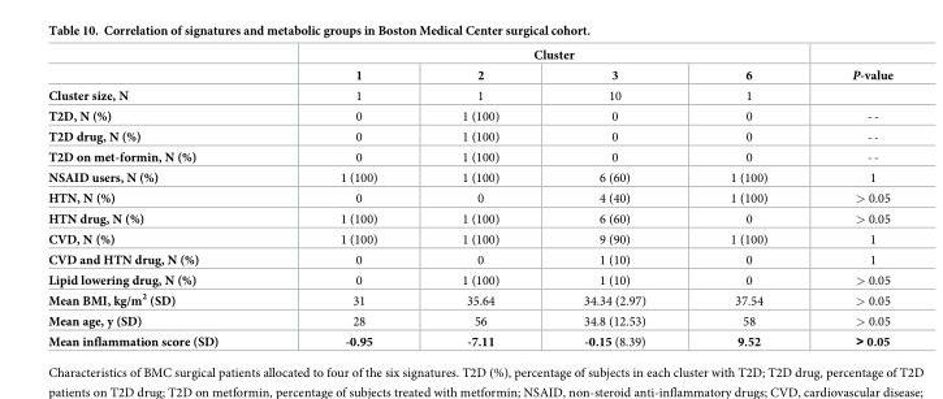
<table><thead><tr><td rowspan="2"></td><td colspan="4">Cluster</td><td rowspan="2">P-value</td></tr><tr><td>1</td><td>2</td><td>3</td><td>6</td></tr></thead><tbody><tr><td>Cluster size, N</td><td>1</td><td>1</td><td>10</td><td>1</td><td></td></tr><tr><td>T2D, N (%)</td><td>0</td><td>1 (100)</td><td>0</td><td>0</td><td>--</td></tr><tr><td>T2D drug, N (%)</td><td>0</td><td>1 (100)</td><td>0</td><td>0</td><td>--</td></tr><tr><td>T2D on met-formin, N (%)</td><td>0</td><td>1 (100)</td><td>0</td><td>0</td><td>--</td></tr><tr><td>NSAID users, N (%)</td><td>1 (100)</td><td>1 (100)</td><td>6 (60)</td><td>1 (100)</td><td>1</td></tr><tr><td>HTN, N (%)</td><td>0</td><td>0</td><td>4 (40)</td><td>1 (100)</td><td>&gt; 0.05</td></tr><tr><td>HTN drug, N (%)</td><td>1 (100)</td><td>1 (100)</td><td>6 (60)</td><td>0</td><td>&gt; 0.05</td></tr><tr><td>CVD, N (%)</td><td>1 (100)</td><td>1 (100)</td><td>9 (90)</td><td>1 (100)</td><td>1</td></tr><tr><td>CVD and HTN drug, N (%)</td><td>0</td><td>0</td><td>1 (10)</td><td>0</td><td>1</td></tr><tr><td>Lipid lowering drug, N (%)</td><td>0</td><td>1 (100)</td><td>1 (10)</td><td>0</td><td>&gt; 0.05</td></tr><tr><td>Mean BMI, kg/m<sup>2</sup> (SD)</td><td>31</td><td>35.64</td><td>34.34 (2.97)</td><td>37.54</td><td>&gt; 0.05</td></tr><tr><td>Mean age, y (SD)</td><td>28</td><td>56</td><td>34.8 (12.53)</td><td>58</td><td>&gt; 0.05</td></tr><tr><td>Mean inflammation score (SD)</td><td>-0.95</td><td>-7.11</td><td>-0.15 (8.39)</td><td>9.52</td><td>&gt; 0.05</td></tr></tbody></table>